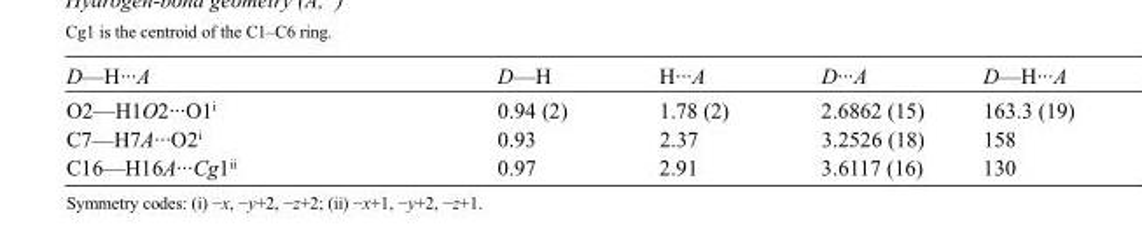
<table><tbody><tr><td>D—H···A</td><td>D—H</td><td>H···A</td><td>D···A</td><td>D—H···A</td></tr><tr><td>O2—H1O2···O1<sup>i</sup></td><td>0.94 (2)</td><td>1.78 (2)</td><td>2.6862 (15)</td><td>163.3 (19)</td></tr><tr><td>C7—H7A···O2<sup>i</sup></td><td>0.93</td><td>2.37</td><td>3.2526 (18)</td><td>158</td></tr><tr><td>C16—H16A···Cg1<sup>ii</sup></td><td>0.97</td><td>2.91</td><td>3.6117 (16)</td><td>130</td></tr></tbody></table>